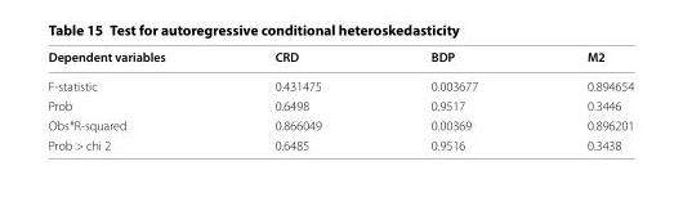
<table><thead><tr><td>Dependent variables</td><td>CRD</td><td>BDP</td><td>M2</td></tr></thead><tbody><tr><td>F-statistic</td><td>0.431475</td><td>0.003677</td><td>0.894654</td></tr><tr><td>Prob</td><td>0.6498</td><td>0.9517</td><td>0.3446</td></tr><tr><td>Obs*R-squared</td><td>0.866049</td><td>0.00369</td><td>0.896201</td></tr><tr><td>Prob &gt; chi 2</td><td>0.6485</td><td>0.9516</td><td>0.3438</td></tr></tbody></table>